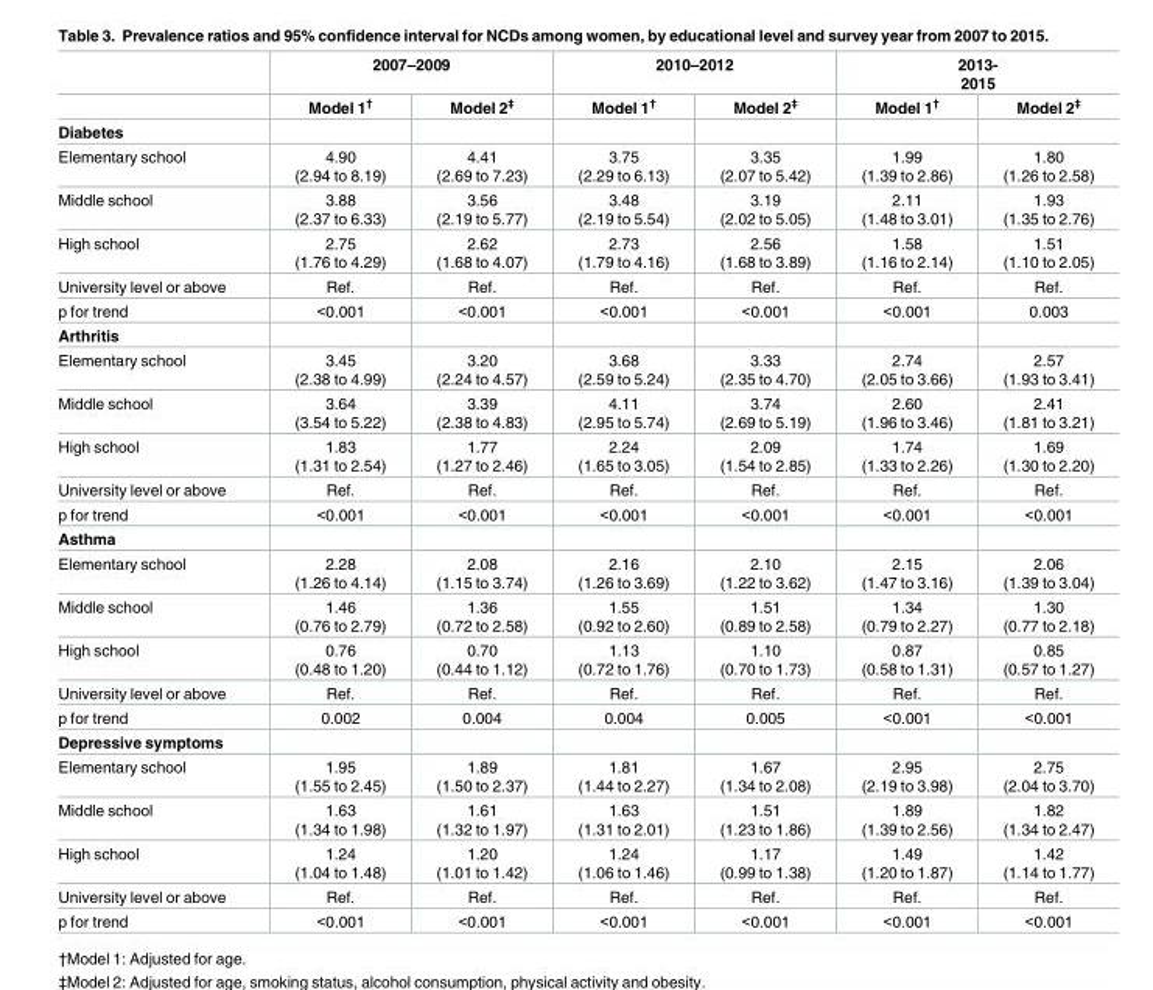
<table><thead><tr><td rowspan="2"></td><td colspan="2">2007–2009</td><td colspan="2">2010–2012</td><td colspan="2">2013- 2015</td></tr><tr><td>Model 1<sup>†</sup></td><td>Model 2<sup>‡</sup></td><td>Model 1<sup>†</sup></td><td>Model 2<sup>‡</sup></td><td>Model 1<sup>†</sup></td><td>Model 2<sup>‡</sup></td></tr></thead><tbody><tr><td colspan="7">Diabetes</td></tr><tr><td>Elementary school</td><td>4.90 (2.94 to 8.19)</td><td>4.41 (2.69 to 7.23)</td><td>3.75 (2.29 to 6.13)</td><td>3.35 (2.07 to 5.42)</td><td>1.99 (1.39 to 2.86)</td><td>1.80 (1.26 to 2.58)</td></tr><tr><td>Middle school</td><td>3.88 (2.37 to 6.33)</td><td>3.56 (2.19 to 5.77)</td><td>3.48 (2.19 to 5.54)</td><td>3.19 (2.02 to 5.05)</td><td>2.11 (1.48 to 3.01)</td><td>1.93 (1.35 to 2.76)</td></tr><tr><td>High school</td><td>2.75 (1.76 to 4.29)</td><td>2.62 (1.68 to 4.07)</td><td>2.73 (1.79 to 4.16)</td><td>2.56 (1.68 to 3.89)</td><td>1.58 (1.16 to 2.14)</td><td>1.51 (1.10 to 2.05)</td></tr><tr><td>University level or above</td><td>Ref.</td><td>Ref.</td><td>Ref.</td><td>Ref.</td><td>Ref.</td><td>Ref.</td></tr><tr><td>p for trend</td><td>&lt;0.001</td><td>&lt;0.001</td><td>&lt;0.001</td><td>&lt;0.001</td><td>&lt;0.001</td><td>0.003</td></tr><tr><td colspan="7">Arthritis</td></tr><tr><td>Elementary school</td><td>3.45 (2.38 to 4.99)</td><td>3.20 (2.24 to 4.57)</td><td>3.68 (2.59 to 5.24)</td><td>3.33 (2.35 to 4.70)</td><td>2.74 (2.05 to 3.66)</td><td>2.57 (1.93 to 3.41)</td></tr><tr><td>Middle school</td><td>3.64 (3.54 to 5.22)</td><td>3.39 (2.38 to 4.83)</td><td>4.11 (2.95 to 5.74)</td><td>3.74 (2.69 to 5.19)</td><td>2.60 (1.96 to 3.46)</td><td>2.41 (1.81 to 3.21)</td></tr><tr><td>High school</td><td>1.83 (1.31 to 2.54)</td><td>1.77 (1.27 to 2.46)</td><td>2.24 (1.65 to 3.05)</td><td>2.09 (1.54 to 2.85)</td><td>1.74 (1.33 to 2.26)</td><td>1.69 (1.30 to 2.20)</td></tr><tr><td>University level or above</td><td>Ref.</td><td>Ref.</td><td>Ref.</td><td>Ref.</td><td>Ref.</td><td>Ref.</td></tr><tr><td>p for trend</td><td>&lt;0.001</td><td>&lt;0.001</td><td>&lt;0.001</td><td>&lt;0.001</td><td>&lt;0.001</td><td>&lt;0.001</td></tr><tr><td colspan="7">Asthma</td></tr><tr><td>Elementary school</td><td>2.28 (1.26 to 4.14)</td><td>2.08 (1.15 to 3.74)</td><td>2.16 (1.26 to 3.69)</td><td>2.10 (1.22 to 3.62)</td><td>2.15 (1.47 to 3.16)</td><td>2.06 (1.39 to 3.04)</td></tr><tr><td>Middle school</td><td>1.46 (0.76 to 2.79)</td><td>1.36 (0.72 to 2.58)</td><td>1.55 (0.92 to 2.60)</td><td>1.51 (0.89 to 2.58)</td><td>1.34 (0.79 to 2.27)</td><td>1.30 (0.77 to 2.18)</td></tr><tr><td>High school</td><td>0.76 (0.48 to 1.20)</td><td>0.70 (0.44 to 1.12)</td><td>1.13 (0.72 to 1.76)</td><td>1.10 (0.70 to 1.73)</td><td>0.87 (0.58 to 1.31)</td><td>0.85 (0.57 to 1.27)</td></tr><tr><td>University level or above</td><td>Ref.</td><td>Ref.</td><td>Ref.</td><td>Ref.</td><td>Ref.</td><td>Ref.</td></tr><tr><td>p for trend</td><td>0.002</td><td>0.004</td><td>0.004</td><td>0.005</td><td>&lt;0.001</td><td>&lt;0.001</td></tr><tr><td colspan="7">Depressive symptoms</td></tr><tr><td>Elementary school</td><td>1.95 (1.55 to 2.45)</td><td>1.89 (1.50 to 2.37)</td><td>1.81 (1.44 to 2.27)</td><td>1.67 (1.34 to 2.08)</td><td>2.95 (2.19 to 3.98)</td><td>2.75 (2.04 to 3.70)</td></tr><tr><td>Middle school</td><td>1.63 (1.34 to 1.98)</td><td>1.61 (1.32 to 1.97)</td><td>1.63 (1.31 to 2.01)</td><td>1.51 (1.23 to 1.86)</td><td>1.89 (1.39 to 2.56)</td><td>1.82 (1.34 to 2.47)</td></tr><tr><td>High school</td><td>1.24 (1.04 to 1.48)</td><td>1.20 (1.01 to 1.42)</td><td>1.24 (1.06 to 1.46)</td><td>1.17 (0.99 to 1.38)</td><td>1.49 (1.20 to 1.87)</td><td>1.42 (1.14 to 1.77)</td></tr><tr><td>University level or above</td><td>Ref.</td><td>Ref.</td><td>Ref.</td><td>Ref.</td><td>Ref.</td><td>Ref.</td></tr><tr><td>p for trend</td><td>&lt;0.001</td><td>&lt;0.001</td><td>&lt;0.001</td><td>&lt;0.001</td><td>&lt;0.001</td><td>&lt;0.001</td></tr></tbody></table>